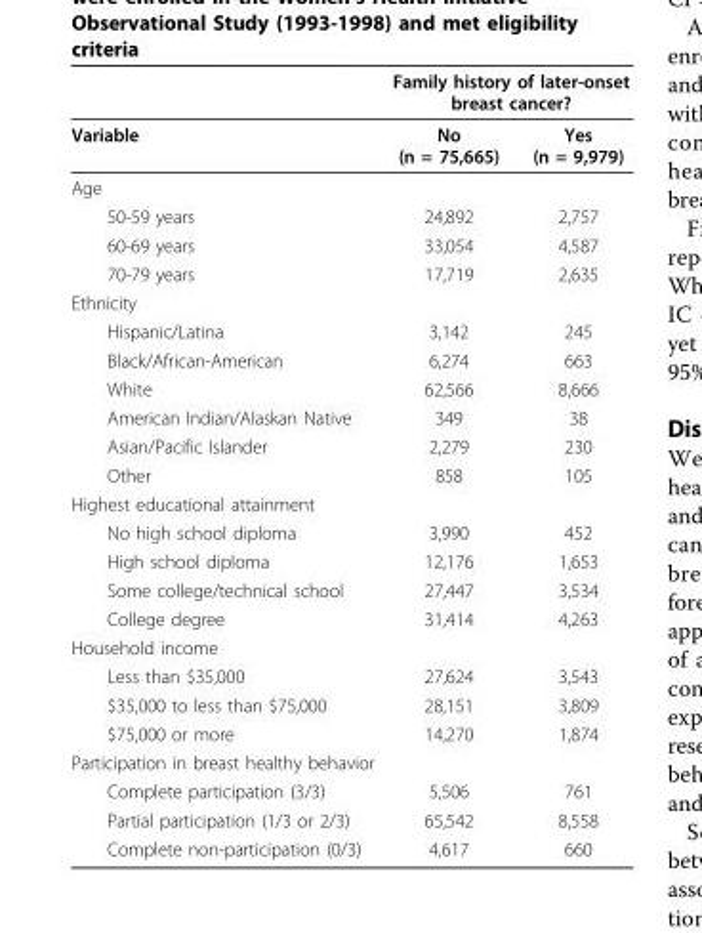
<table><thead><tr><td rowspan="2">Variable</td><td colspan="2">Family history of later-onset breast cancer?</td></tr><tr><td>No (n = 75,665)</td><td>Yes (n = 9,979)</td></tr></thead><tbody><tr><td colspan="3">Age</td></tr><tr><td>50-59 years</td><td>24,892</td><td>2,757</td></tr><tr><td>60-69 years</td><td>33,054</td><td>4,587</td></tr><tr><td>70-79 years</td><td>17,719</td><td>2,635</td></tr><tr><td colspan="3">Ethnicity</td></tr><tr><td>Hispanic/Latina</td><td>3,142</td><td>245</td></tr><tr><td>Black/African-American</td><td>6,274</td><td>663</td></tr><tr><td>White</td><td>62,566</td><td>8,666</td></tr><tr><td>American Indian/Alaskan Native</td><td>349</td><td>38</td></tr><tr><td>Asian/Pacific Islander</td><td>2,279</td><td>230</td></tr><tr><td>Other</td><td>858</td><td>105</td></tr><tr><td colspan="3">Highest educational attainment</td></tr><tr><td>No high school diploma</td><td>3,990</td><td>452</td></tr><tr><td>High school diploma</td><td>12,176</td><td>1,653</td></tr><tr><td>Some college/technical school</td><td>27,447</td><td>3,534</td></tr><tr><td>College degree</td><td>31,414</td><td>4,263</td></tr><tr><td colspan="3">Household income</td></tr><tr><td>Less than $35,000</td><td>27,624</td><td>3,543</td></tr><tr><td>$35,000 to less than $75,000</td><td>28,151</td><td>3,809</td></tr><tr><td>$75,000 or more</td><td>14,270</td><td>1,874</td></tr><tr><td colspan="3">Participation in breast healthy behavior</td></tr><tr><td>Complete participation (3/3)</td><td>5,506</td><td>761</td></tr><tr><td>Partial participation (1/3 or 2/3)</td><td>65,542</td><td>8,558</td></tr><tr><td>Complete non-participation (0/3)</td><td>4,617</td><td>660</td></tr></tbody></table>